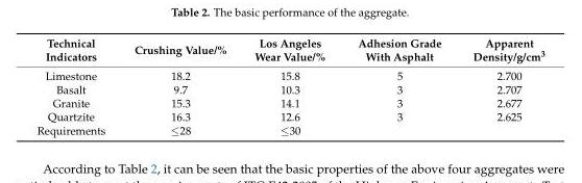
<table><thead><tr><td>Technical Indicators</td><td>Crushing Value/%</td><td>Los Angeles Wear Value/%</td><td>Adhesion Grade With Asphalt</td><td>Apparent Density/g/cm<sup>3</sup></td></tr></thead><tbody><tr><td>Limestone</td><td>18.2</td><td>15.8</td><td>5</td><td>2.700</td></tr><tr><td>Basalt</td><td>9.7</td><td>10.3</td><td>3</td><td>2.707</td></tr><tr><td>Granite</td><td>15.3</td><td>14.1</td><td>3</td><td>2.677</td></tr><tr><td>Quartzite</td><td>16.3</td><td>12.6</td><td>3</td><td>2.625</td></tr><tr><td>Requirements</td><td>≤28</td><td>≤30</td><td></td><td></td></tr></tbody></table>